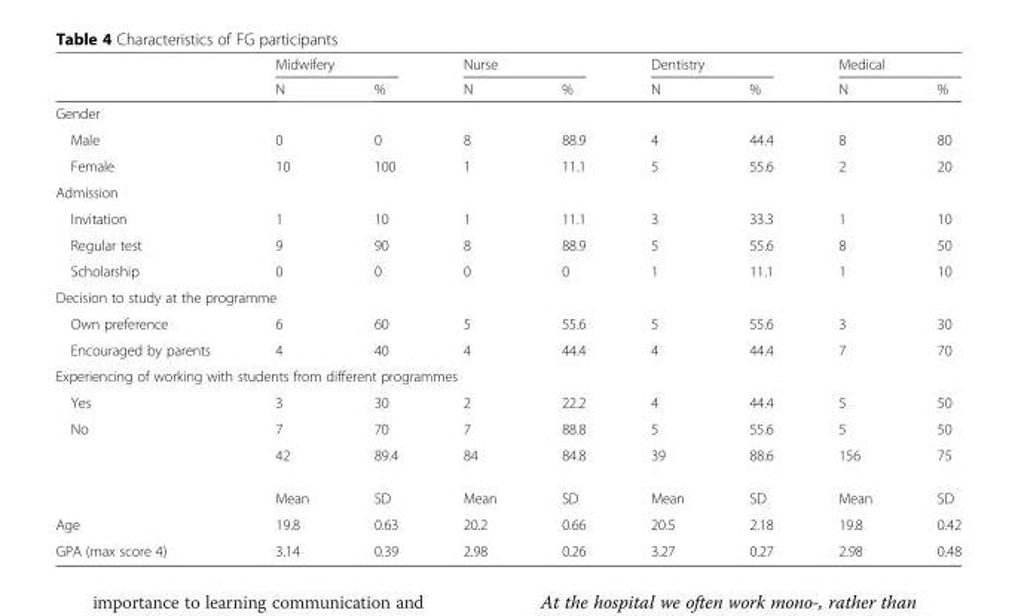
<table><thead><tr><td rowspan="2"></td><td colspan="2">Midwifery</td><td colspan="2">Nurse</td><td colspan="2">Dentistry</td><td colspan="2">Medical</td></tr><tr><td>N</td><td>%</td><td>N</td><td>%</td><td>N</td><td>%</td><td>N</td><td>%</td></tr></thead><tbody><tr><td colspan="9">Gender</td></tr><tr><td>Male</td><td>0</td><td>0</td><td>8</td><td>88.9</td><td>4</td><td>44.4</td><td>8</td><td>80</td></tr><tr><td>Female</td><td>10</td><td>100</td><td>1</td><td>11.1</td><td>5</td><td>55.6</td><td>2</td><td>20</td></tr><tr><td colspan="9">Admission</td></tr><tr><td>Invitation</td><td>1</td><td>10</td><td>1</td><td>11.1</td><td>3</td><td>33.3</td><td>1</td><td>10</td></tr><tr><td>Regular test</td><td>9</td><td>90</td><td>8</td><td>88.9</td><td>5</td><td>55.6</td><td>8</td><td>50</td></tr><tr><td>Scholarship</td><td>0</td><td>0</td><td>0</td><td>0</td><td>1</td><td>11.1</td><td>1</td><td>10</td></tr><tr><td colspan="9">Decision to study at the programme</td></tr><tr><td>Own preference</td><td>6</td><td>60</td><td>5</td><td>55.6</td><td>5</td><td>55.6</td><td>3</td><td>30</td></tr><tr><td>Encouraged by parents</td><td>4</td><td>40</td><td>4</td><td>44.4</td><td>4</td><td>44.4</td><td>7</td><td>70</td></tr><tr><td colspan="9">Experiencing of working with students from different programmes</td></tr><tr><td>Yes</td><td>3</td><td>30</td><td>2</td><td>22.2</td><td>4</td><td>44.4</td><td>5</td><td>50</td></tr><tr><td rowspan="3">No</td><td>7</td><td>70</td><td>7</td><td>88.8</td><td>5</td><td>55.6</td><td>5</td><td>50</td></tr><tr><td>42</td><td>89.4</td><td>84</td><td>84.8</td><td>39</td><td>88.6</td><td>156</td><td>75</td></tr><tr><td>Mean</td><td>SD</td><td>Mean</td><td>SD</td><td>Mean</td><td>SD</td><td>Mean</td><td>SD</td></tr><tr><td>Age</td><td>19.8</td><td>0.63</td><td>20.2</td><td>0.66</td><td>20.5</td><td>2.18</td><td>19.8</td><td>0.42</td></tr><tr><td>GPA (max score 4)</td><td>3.14</td><td>0.39</td><td>2.98</td><td>0.26</td><td>3.27</td><td>0.27</td><td>2.98</td><td>0.48</td></tr></tbody></table>